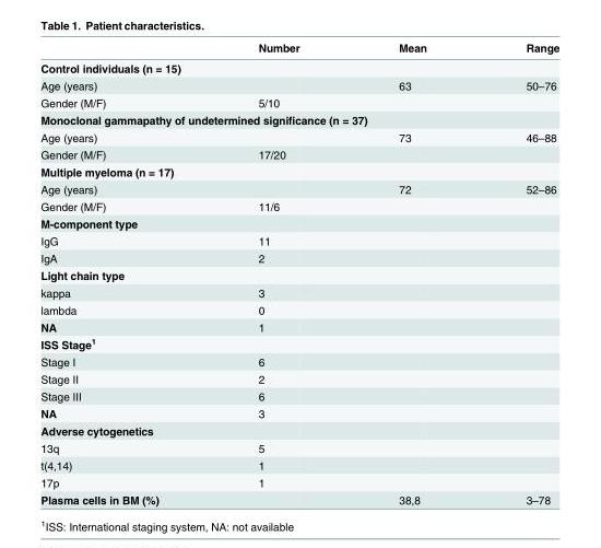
<table><thead><tr><td></td><td>Number</td><td>Mean</td><td>Range</td></tr></thead><tbody><tr><td colspan="4">Control individuals (n = 15)</td></tr><tr><td>Age (years)</td><td></td><td>63</td><td>50–76</td></tr><tr><td>Gender (M/F)</td><td>5/10</td><td></td><td></td></tr><tr><td colspan="4">Monoclonal gammapathy of undetermined significance (n = 37)</td></tr><tr><td>Age (years)</td><td></td><td>73</td><td>46–88</td></tr><tr><td>Gender (M/F)</td><td>17/20</td><td></td><td></td></tr><tr><td colspan="4">Multiple myeloma (n = 17)</td></tr><tr><td>Age (years)</td><td></td><td>72</td><td>52–86</td></tr><tr><td>Gender (M/F)</td><td>11/6</td><td></td><td></td></tr><tr><td colspan="4">M-component type</td></tr><tr><td>IgG</td><td>11</td><td></td><td></td></tr><tr><td>IgA</td><td>2</td><td></td><td></td></tr><tr><td colspan="4">Light chain type</td></tr><tr><td>kappa</td><td>3</td><td></td><td></td></tr><tr><td>lambda</td><td>0</td><td></td><td></td></tr><tr><td>NA</td><td>1</td><td></td><td></td></tr><tr><td colspan="4">ISS Stage<sup>1</sup></td></tr><tr><td>Stage I</td><td>6</td><td></td><td></td></tr><tr><td>Stage II</td><td>2</td><td></td><td></td></tr><tr><td>Stage III</td><td>6</td><td></td><td></td></tr><tr><td>NA</td><td>3</td><td></td><td></td></tr><tr><td colspan="4">Adverse cytogenetics</td></tr><tr><td>13q</td><td>5</td><td></td><td></td></tr><tr><td>t(4,14)</td><td>1</td><td></td><td></td></tr><tr><td>17p</td><td>1</td><td></td><td></td></tr><tr><td>Plasma cells in BM (%)</td><td></td><td>38,8</td><td>3–78</td></tr></tbody></table>